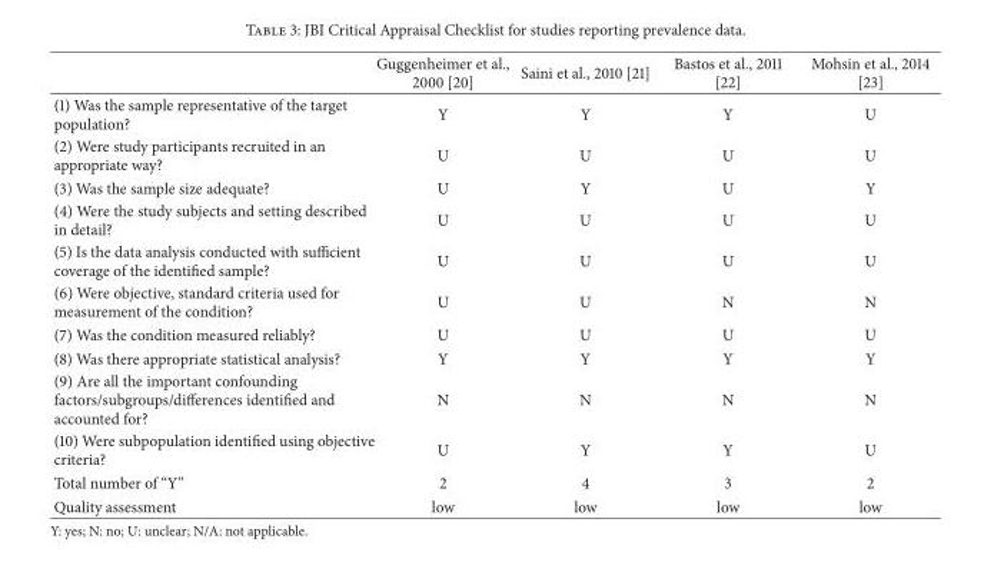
<table><thead><tr><td></td><td>Guggenheimer et al., 2000 [20]</td><td>Saini et al., 2010 [21]</td><td>Bastos et al., 2011 [22]</td><td>Mohsin et al., 2014 [23]</td></tr></thead><tbody><tr><td>(1) Was the sample representative of the target population?</td><td>Y</td><td>Y</td><td>Y</td><td>U</td></tr><tr><td>(2) Were study participants recruited in an appropriate way?</td><td>U</td><td>U</td><td>U</td><td>U</td></tr><tr><td>(3) Was the sample size adequate?</td><td>U</td><td>Y</td><td>U</td><td>Y</td></tr><tr><td>(4) Were the study subjects and setting described in detail?</td><td>U</td><td>U</td><td>U</td><td>U</td></tr><tr><td>(5) Is the data analysis conducted with sufficient coverage of the identified sample?</td><td>U</td><td>U</td><td>U</td><td>U</td></tr><tr><td>(6) Were objective, standard criteria used for measurement of the condition?</td><td>U</td><td>U</td><td>N</td><td>N</td></tr><tr><td>(7) Was the condition measured reliably?</td><td>U</td><td>U</td><td>U</td><td>U</td></tr><tr><td>(8) Was there appropriate statistical analysis?</td><td>Y</td><td>Y</td><td>Y</td><td>Y</td></tr><tr><td>(9) Are all the important confounding factors/subgroups/differences identified and accounted for?</td><td>N</td><td>N</td><td>N</td><td>N</td></tr><tr><td>(10) Were subpopulation identified using objective criteria?</td><td>U</td><td>Y</td><td>Y</td><td>U</td></tr><tr><td>Total number of “Y”</td><td>2</td><td>4</td><td>3</td><td>2</td></tr><tr><td>Quality assessment</td><td>low</td><td>low</td><td>low</td><td>low</td></tr></tbody></table>